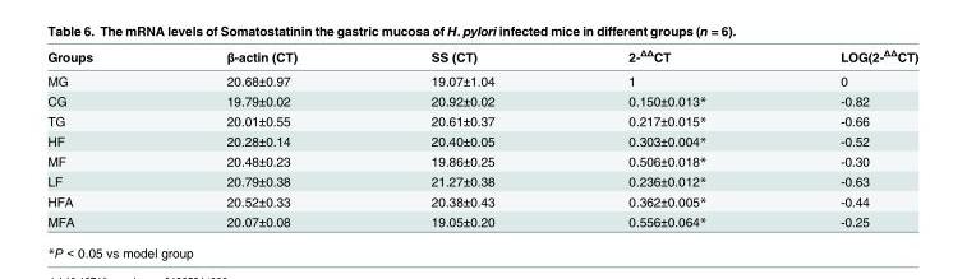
<table><thead><tr><td>Groups</td><td>β-actin (CT)</td><td>SS (CT)</td><td>2-<sup>ΔΔ</sup>CT</td><td>LOG(2-<sup>ΔΔ</sup>CT)</td></tr></thead><tbody><tr><td>MG</td><td>20.68±0.97</td><td>19.07±1.04</td><td>1</td><td>0</td></tr><tr><td>CG</td><td>19.79±0.02</td><td>20.92±0.02</td><td>0.150±0.013*</td><td>-0.82</td></tr><tr><td>TG</td><td>20.01±0.55</td><td>20.61±0.37</td><td>0.217±0.015*</td><td>-0.66</td></tr><tr><td>HF</td><td>20.28±0.14</td><td>20.40±0.05</td><td>0.303±0.004*</td><td>-0.52</td></tr><tr><td>MF</td><td>20.48±0.23</td><td>19.86±0.25</td><td>0.506±0.018*</td><td>-0.30</td></tr><tr><td>LF</td><td>20.79±0.38</td><td>21.27±0.38</td><td>0.236±0.012*</td><td>-0.63</td></tr><tr><td>HFA</td><td>20.52±0.33</td><td>20.38±0.43</td><td>0.362±0.005*</td><td>-0.44</td></tr><tr><td>MFA</td><td>20.07±0.08</td><td>19.05±0.20</td><td>0.556±0.064*</td><td>-0.25</td></tr></tbody></table>